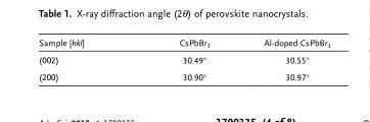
<table><thead><tr><td>Sample [hkl]</td><td>CsPbBr<sub>3</sub></td><td>Al-doped CsPbBr<sub>3</sub></td></tr></thead><tbody><tr><td>(002)</td><td>30.49°</td><td>30.55°</td></tr><tr><td>(200)</td><td>30.90°</td><td>30.97°</td></tr></tbody></table>